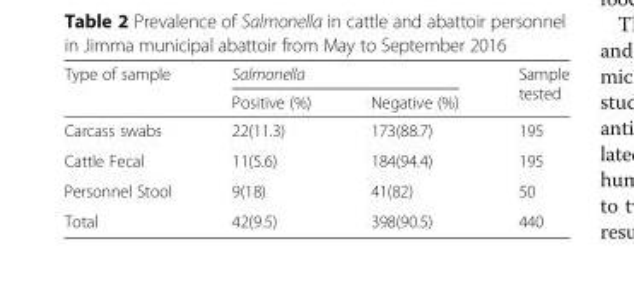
<table><thead><tr><td rowspan="2">Type of sample</td><td colspan="2">Salmonella</td><td rowspan="2">Sample tested</td></tr><tr><td>Positive (%)</td><td>Negative (%)</td></tr></thead><tbody><tr><td>Carcass swabs</td><td>22(11.3)</td><td>173(88.7)</td><td>195</td></tr><tr><td>Cattle Fecal</td><td>11(5.6)</td><td>184(94.4)</td><td>195</td></tr><tr><td>Personnel Stool</td><td>9(18)</td><td>41(82)</td><td>50</td></tr><tr><td>Total</td><td>42(9.5)</td><td>398(90.5)</td><td>440</td></tr></tbody></table>